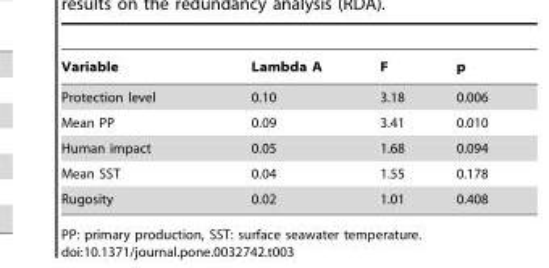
<table><thead><tr><td>Variable</td><td>Lambda A</td><td>F</td><td>p</td></tr></thead><tbody><tr><td>Protection level</td><td>0.10</td><td>3.18</td><td>0.006</td></tr><tr><td>Mean PP</td><td>0.09</td><td>3.41</td><td>0.010</td></tr><tr><td>Human impact</td><td>0.05</td><td>1.68</td><td>0.094</td></tr><tr><td>Mean SST</td><td>0.04</td><td>1.55</td><td>0.178</td></tr><tr><td>Rugosity</td><td>0.02</td><td>1.01</td><td>0.408</td></tr></tbody></table>